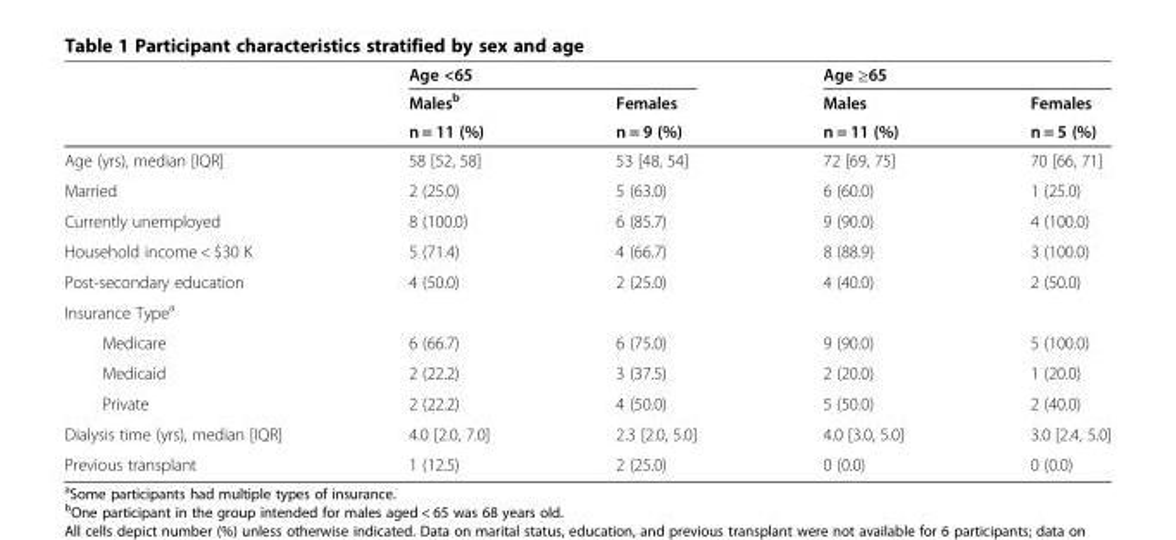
<table><thead><tr><td rowspan="3"></td><td colspan="2">Age &lt;65</td><td colspan="2">Age ≥65</td></tr><tr><td rowspan="2">Males<sup>b</sup> n = 11 (%)</td><td rowspan="2">Females n = 9 (%)</td><td rowspan="2">Males n = 11 (%)</td><td rowspan="2">Females n = 5 (%)</td></tr><tr></tr></thead><tbody><tr><td>Age (yrs), median [IQR]</td><td>58 [52, 58]</td><td>53 [48, 54]</td><td>72 [69, 75]</td><td>70 [66, 71]</td></tr><tr><td>Married</td><td>2 (25.0)</td><td>5 (63.0)</td><td>6 (60.0)</td><td>1 (25.0)</td></tr><tr><td>Currently unemployed</td><td>8 (100.0)</td><td>6 (85.7)</td><td>9 (90.0)</td><td>4 (100.0)</td></tr><tr><td>Household income &lt; $30 K</td><td>5 (71.4)</td><td>4 (66.7)</td><td>8 (88.9)</td><td>3 (100.0)</td></tr><tr><td>Post-secondary education</td><td>4 (50.0)</td><td>2 (25.0)</td><td>4 (40.0)</td><td>2 (50.0)</td></tr><tr><td colspan="5">Insurance Type<sup>a</sup></td></tr><tr><td>Medicare</td><td>6 (66.7)</td><td>6 (75.0)</td><td>9 (90.0)</td><td>5 (100.0)</td></tr><tr><td>Medicaid</td><td>2 (22.2)</td><td>3 (37.5)</td><td>2 (20.0)</td><td>1 (20.0)</td></tr><tr><td>Private</td><td>2 (22.2)</td><td>4 (50.0)</td><td>5 (50.0)</td><td>2 (40.0)</td></tr><tr><td>Dialysis time (yrs), median [IQR]</td><td>4.0 [2.0, 7.0]</td><td>2.3 [2.0, 5.0]</td><td>4.0 [3.0, 5.0]</td><td>3.0 [2.4, 5.0]</td></tr><tr><td>Previous transplant</td><td>1 (12.5)</td><td>2 (25.0)</td><td>0 (0.0)</td><td>0 (0.0)</td></tr></tbody></table>